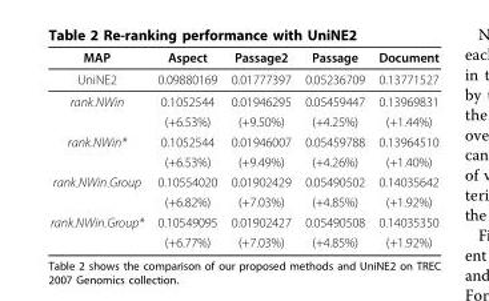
<table><thead><tr><td>MAP</td><td>Aspect</td><td>Passage2</td><td>Passage</td><td>Document</td></tr></thead><tbody><tr><td>UniNE2</td><td>0.09880169</td><td>0.01777397</td><td>0.05236709</td><td>0.13771527</td></tr><tr><td rowspan="2">rank<sub>-</sub>NWin</td><td>0.1052544</td><td>0.01946295</td><td>0.05459447</td><td>0.13969831</td></tr><tr><td>(+6.53%)</td><td>(+9.50%)</td><td>(+4.25%)</td><td>(+1.44%)</td></tr><tr><td rowspan="2">rank<sub>-</sub>NWin*</td><td>0.1052544</td><td>0.01946007</td><td>0.05459788</td><td>0.13964510</td></tr><tr><td>(+6.53%)</td><td>(+9.49%)</td><td>(+4.26%)</td><td>(+1.40%)</td></tr><tr><td rowspan="2">rank<sub>-</sub>NWin<sub>-</sub>Group</td><td>0.10554020</td><td>0.01902429</td><td>0.05490502</td><td>0.14035642</td></tr><tr><td>(+6.82%)</td><td>(+7.03%)</td><td>(+4.85%)</td><td>(+1.92%)</td></tr><tr><td rowspan="2">rank<sub>-</sub>NWin<sub>-</sub>Group*</td><td>0.10549095</td><td>0.01902427</td><td>0.05490508</td><td>0.14035350</td></tr><tr><td>(+6.77%)</td><td>(+7.03%)</td><td>(+4.85%)</td><td>(+1.92%)</td></tr></tbody></table>